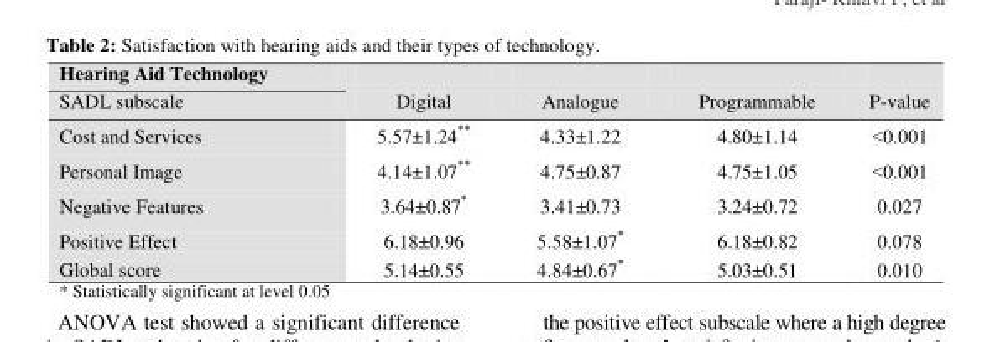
<table><thead><tr><td rowspan="2">Hearing Aid Technology SADL subscale</td><td rowspan="2">Digital</td><td rowspan="2">Analogue</td><td rowspan="2">Programmable</td><td rowspan="2">P-value</td></tr><tr></tr></thead><tbody><tr><td>Cost and Services</td><td>5.57±1.24**</td><td>4.33±1.22</td><td>4.80±1.14</td><td>&gt;0.001</td></tr><tr><td>Personal Image</td><td>4.14±1.07**</td><td>4.75±0.87</td><td>4.75±1.05</td><td>&gt;0.001</td></tr><tr><td>Negative Features</td><td>3.64±0.87*</td><td>3.41±0.73</td><td>3.24±0.72</td><td>0.027</td></tr><tr><td>Positive Effect</td><td>6.18±0.96</td><td>5.58±1.07*</td><td>6.18±0.82</td><td>0.078</td></tr><tr><td>Global score</td><td>5.14±0.55</td><td>4.84±0.67*</td><td>5.03±0.51</td><td>0.010</td></tr></tbody></table>